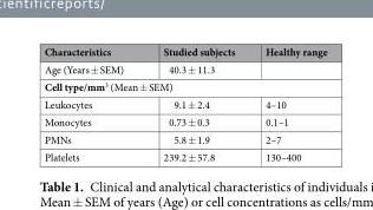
<table><thead><tr><td>Characteristics</td><td>Studied subjects</td><td>Healthy range</td></tr></thead><tbody><tr><td>Age (Years ± SEM)</td><td>40.3 ± 11.3</td><td></td></tr><tr><td colspan="3">Cell type/mm<sup>3</sup> (Mean ± SEM)</td></tr><tr><td>Leukocytes</td><td>9.1 ± 2.4</td><td>4–10</td></tr><tr><td>Monocytes</td><td>0.73 ± 0.3</td><td>0.1–1</td></tr><tr><td>PMNs</td><td>5.8 ± 1.9</td><td>2–7</td></tr><tr><td>Platelets</td><td>239.2 ± 57.8</td><td>130–400</td></tr></tbody></table>